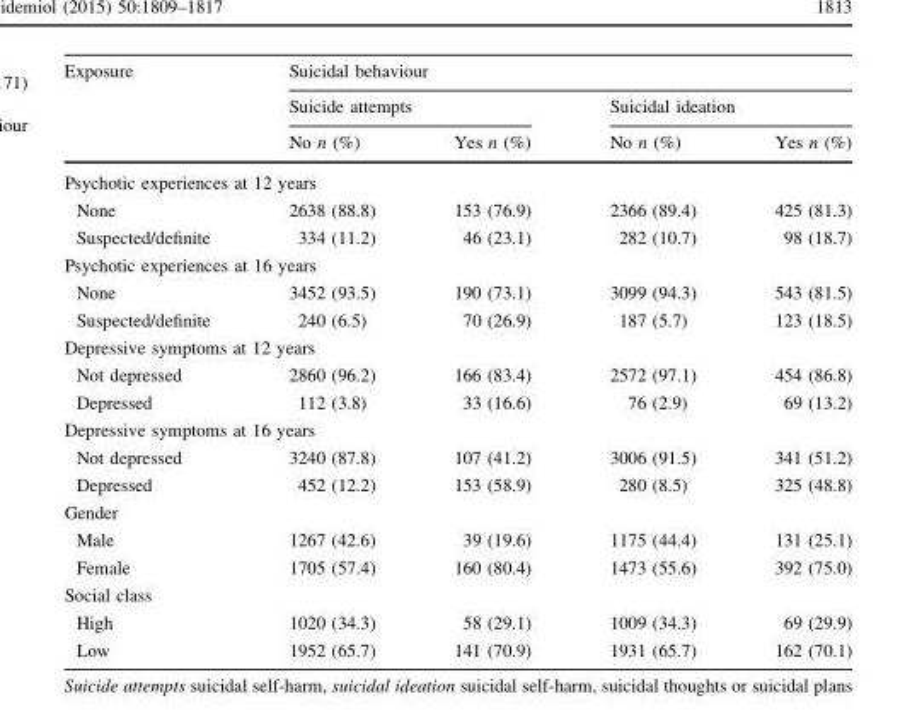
<table><thead><tr><td rowspan="3">Exposure</td><td colspan="4">Suicidal behaviour</td></tr><tr><td colspan="2">Suicide attempts</td><td colspan="2">Suicidal ideation</td></tr><tr><td>No n (%)</td><td>Yes n (%)</td><td>No n (%)</td><td>Yes n (%)</td></tr></thead><tbody><tr><td colspan="5">Psychotic experiences at 12 years</td></tr><tr><td>None</td><td>2638 (88.8)</td><td>153 (76.9)</td><td>2366 (89.4)</td><td>425 (81.3)</td></tr><tr><td>Suspected/definite</td><td>334 (11.2)</td><td>46 (23.1)</td><td>282 (10.7)</td><td>98 (18.7)</td></tr><tr><td colspan="5">Psychotic experiences at 16 years</td></tr><tr><td>None</td><td>3452 (93.5)</td><td>190 (73.1)</td><td>3099 (94.3)</td><td>543 (81.5)</td></tr><tr><td>Suspected/definite</td><td>240 (6.5)</td><td>70 (26.9)</td><td>187 (5.7)</td><td>123 (18.5)</td></tr><tr><td colspan="5">Depressive symptoms at 12 years</td></tr><tr><td>Not depressed</td><td>2860 (96.2)</td><td>166 (83.4)</td><td>2572 (97.1)</td><td>454 (86.8)</td></tr><tr><td>Depressed</td><td>112 (3.8)</td><td>33 (16.6)</td><td>76 (2.9)</td><td>69 (13.2)</td></tr><tr><td colspan="5">Depressive symptoms at 16 years</td></tr><tr><td>Not depressed</td><td>3240 (87.8)</td><td>107 (41.2)</td><td>3006 (91.5)</td><td>341 (51.2)</td></tr><tr><td>Depressed</td><td>452 (12.2)</td><td>153 (58.9)</td><td>280 (8.5)</td><td>325 (48.8)</td></tr><tr><td colspan="5">Gender</td></tr><tr><td>Male</td><td>1267 (42.6)</td><td>39 (19.6)</td><td>1175 (44.4)</td><td>131 (25.1)</td></tr><tr><td>Female</td><td>1705 (57.4)</td><td>160 (80.4)</td><td>1473 (55.6)</td><td>392 (75.0)</td></tr><tr><td colspan="5">Social class</td></tr><tr><td>High</td><td>1020 (34.3)</td><td>58 (29.1)</td><td>1009 (34.3)</td><td>69 (29.9)</td></tr><tr><td>Low</td><td>1952 (65.7)</td><td>141 (70.9)</td><td>1931 (65.7)</td><td>162 (70.1)</td></tr></tbody></table>